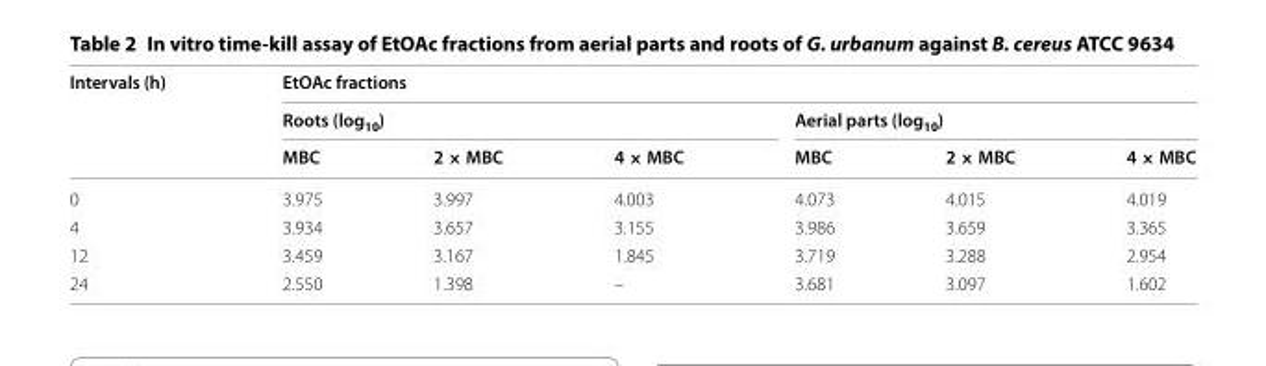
<table><thead><tr><td rowspan="3">Intervals (h)</td><td colspan="6">EtOAc fractions</td></tr><tr><td colspan="3">Roots (log<sub>10</sub>)</td><td colspan="3">Aerial parts (log<sub>10</sub>)</td></tr><tr><td>MBC</td><td>2 × MBC</td><td>4 × MBC</td><td>MBC</td><td>2 × MBC</td><td>4 × MBC</td></tr></thead><tbody><tr><td>0</td><td>3.975</td><td>3.997</td><td>4.003</td><td>4.073</td><td>4.015</td><td>4.019</td></tr><tr><td>4</td><td>3.934</td><td>3.657</td><td>3.155</td><td>3.986</td><td>3.659</td><td>3.365</td></tr><tr><td>12</td><td>3.459</td><td>3.167</td><td>1.845</td><td>3.719</td><td>3.288</td><td>2.954</td></tr><tr><td>24</td><td>2.550</td><td>1.398</td><td>–</td><td>3.681</td><td>3.097</td><td>1.602</td></tr></tbody></table>